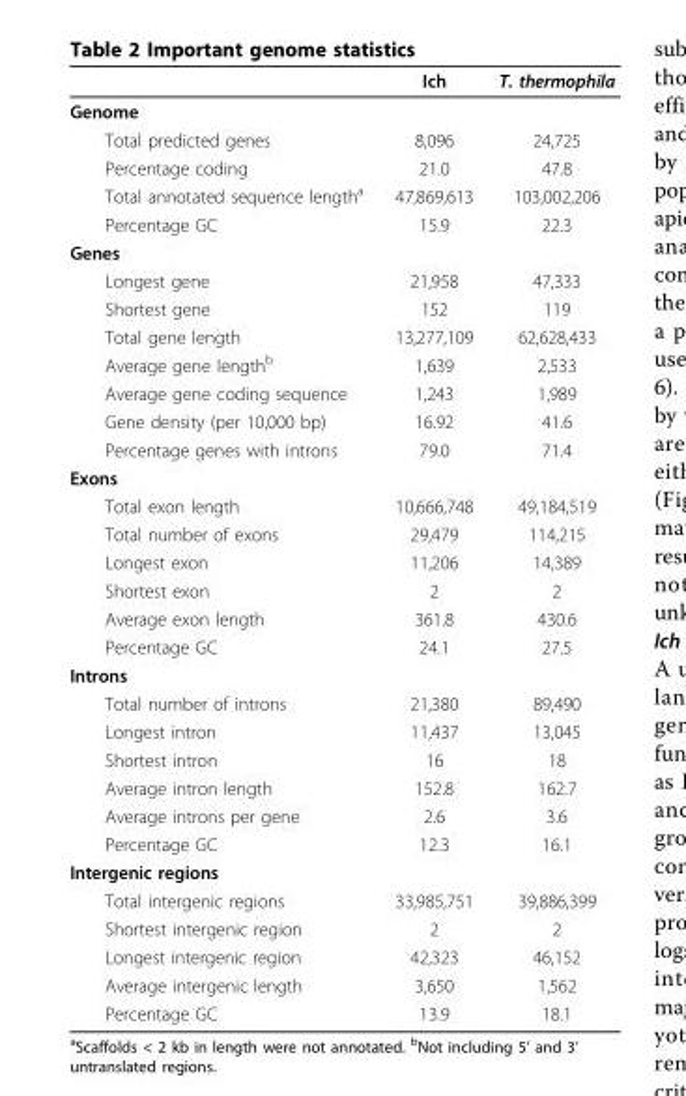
<table><thead><tr><td></td><td>Ich</td><td>T. thermophila</td></tr></thead><tbody><tr><td colspan="3">Genome</td></tr><tr><td>Total predicted genes</td><td>8,096</td><td>24,725</td></tr><tr><td>Percentage coding</td><td>21.0</td><td>47.8</td></tr><tr><td>Total annotated sequence length<sup>a</sup></td><td>47,869,613</td><td>103,002,206</td></tr><tr><td>Percentage GC</td><td>15.9</td><td>22.3</td></tr><tr><td colspan="3">Genes</td></tr><tr><td>Longest gene</td><td>21,958</td><td>47,333</td></tr><tr><td>Shortest gene</td><td>152</td><td>119</td></tr><tr><td>Total gene length</td><td>13,277,109</td><td>62,628,433</td></tr><tr><td>Average gene length<sup>b</sup></td><td>1,639</td><td>2,533</td></tr><tr><td>Average gene coding sequence</td><td>1,243</td><td>1,989</td></tr><tr><td>Gene density (per 10,000 bp)</td><td>16.92</td><td>41.6</td></tr><tr><td>Percentage genes with introns</td><td>79.0</td><td>71.4</td></tr><tr><td colspan="3">Exons</td></tr><tr><td>Total exon length</td><td>10,666,748</td><td>49,184,519</td></tr><tr><td>Total number of exons</td><td>29,479</td><td>114,215</td></tr><tr><td>Longest exon</td><td>11,206</td><td>14,389</td></tr><tr><td>Shortest exon</td><td>2</td><td>2</td></tr><tr><td>Average exon length</td><td>361.8</td><td>430.6</td></tr><tr><td>Percentage GC</td><td>24.1</td><td>27.5</td></tr><tr><td colspan="3">Introns</td></tr><tr><td>Total number of introns</td><td>21,380</td><td>89,490</td></tr><tr><td>Longest intron</td><td>11,437</td><td>13,045</td></tr><tr><td>Shortest intron</td><td>16</td><td>18</td></tr><tr><td>Average intron length</td><td>152.8</td><td>162.7</td></tr><tr><td>Average introns per gene</td><td>2.6</td><td>3.6</td></tr><tr><td>Percentage GC</td><td>12.3</td><td>16.1</td></tr><tr><td colspan="3">Intergenic regions</td></tr><tr><td>Total intergenic regions</td><td>33,985,751</td><td>39,886,399</td></tr><tr><td>Shortest intergenic region</td><td>2</td><td>2</td></tr><tr><td>Longest intergenic region</td><td>42,323</td><td>46,152</td></tr><tr><td>Average intergenic length</td><td>3,650</td><td>1,562</td></tr><tr><td>Percentage GC</td><td>13.9</td><td>18.1</td></tr></tbody></table>